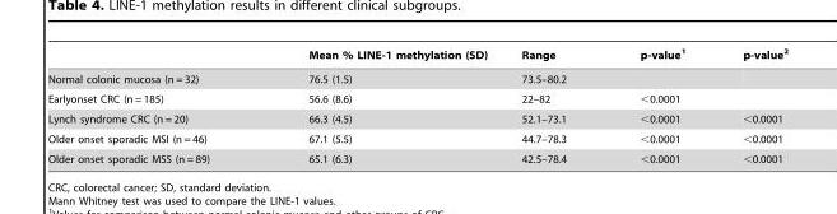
<table><thead><tr><td></td><td>Mean % LINE-1 methylation (SD)</td><td>Range</td><td>p-value<sup>1</sup></td><td>p-value<sup>2</sup></td></tr></thead><tbody><tr><td>Normal colonic mucosa (n = 32)</td><td>76.5 (1.5)</td><td>73.5–80.2</td><td></td><td></td></tr><tr><td>Earlyonset CRC (n = 185)</td><td>56.6 (8.6)</td><td>22–82</td><td>&lt;0.0001</td><td></td></tr><tr><td>Lynch syndrome CRC (n = 20)</td><td>66.3 (4.5)</td><td>52.1–73.1</td><td>&lt;0.0001</td><td>&lt;0.0001</td></tr><tr><td>Older onset sporadic MSI (n = 46)</td><td>67.1 (5.5)</td><td>44.7–78.3</td><td>&lt;0.0001</td><td>&lt;0.0001</td></tr><tr><td>Older onset sporadic MSS (n = 89)</td><td>65.1 (6.3)</td><td>42.5–78.4</td><td>&lt;0.0001</td><td>&lt;0.0001</td></tr></tbody></table>